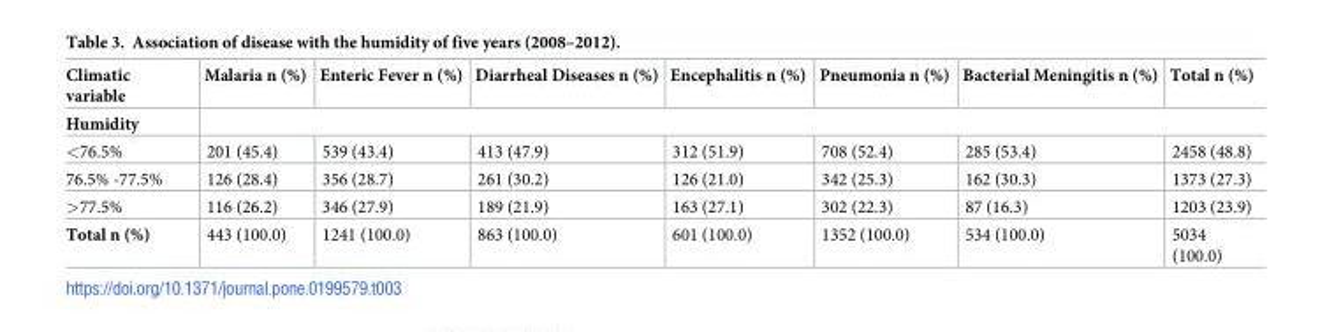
<table><thead><tr><td rowspan="2">Climatic variable Humidity</td><td rowspan="2">Malaria n (%)</td><td rowspan="2">Enteric Fever n (%)</td><td rowspan="2">Diarrheal Diseases n (%)</td><td rowspan="2">Encephalitis n (%)</td><td rowspan="2">Pneumonia n (%)</td><td rowspan="2">Bacterial Meningitis n (%)</td><td rowspan="2">Total n (%)</td></tr><tr></tr></thead><tbody><tr><td>&lt;76.5%</td><td>201 (45.4)</td><td>539 (43.4)</td><td>413 (47.9)</td><td>312 (51.9)</td><td>708 (52.4)</td><td>285 (53.4)</td><td>2458 (48.8)</td></tr><tr><td>76.5% -77.5%</td><td>126 (28.4)</td><td>356 (28.7)</td><td>261 (30.2)</td><td>126 (21.0)</td><td>342 (25.3)</td><td>162 (30.3)</td><td>1373 (27.3)</td></tr><tr><td>&gt;77.5%</td><td>116 (26.2)</td><td>346 (27.9)</td><td>189 (21.9)</td><td>163 (27.1)</td><td>302 (22.3)</td><td>87 (16.3)</td><td>1203 (23.9)</td></tr><tr><td>Total n (%)</td><td>443 (100.0)</td><td>1241 (100.0)</td><td>863 (100.0)</td><td>601 (100.0)</td><td>1352 (100.0)</td><td>534 (100.0)</td><td>5034 (100.0)</td></tr></tbody></table>